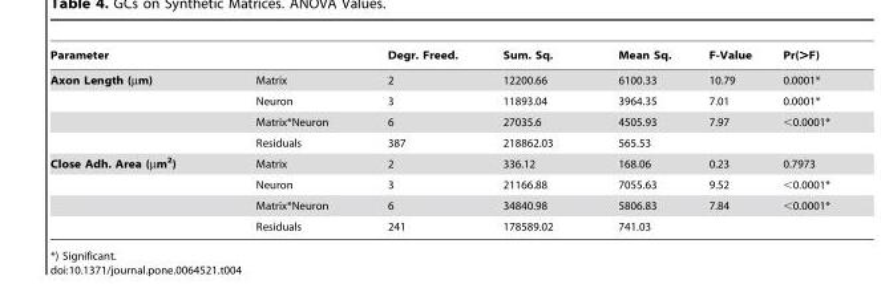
<table><thead><tr><td colspan="2">Parameter</td><td rowspan="2">Degr. Freed. 2</td><td rowspan="2">Sum. Sq. 12200.66</td><td rowspan="2">Mean Sq. 6100.33</td><td rowspan="2">F-Value 10.79</td><td rowspan="2">Pr(&gt;F) 0.0001*</td></tr><tr><td>Axon Length (µm)</td><td>Matrix</td></tr></thead><tbody><tr><td></td><td>Neuron</td><td>3</td><td>11893.04</td><td>3964.35</td><td>7.01</td><td>0.0001*</td></tr><tr><td></td><td>Matrix*Neuron</td><td>6</td><td>27035.6</td><td>4505.93</td><td>7.97</td><td>&lt;0.0001*</td></tr><tr><td></td><td>Residuals</td><td>387</td><td>218862.03</td><td>565.53</td><td></td><td></td></tr><tr><td rowspan="4">Close Adh. Area (µm<sup>2</sup>)</td><td>Matrix</td><td>2</td><td>336.12</td><td>168.06</td><td>0.23</td><td>0.7973</td></tr><tr><td>Neuron</td><td>3</td><td>21166.88</td><td>7055.63</td><td>9.52</td><td>&lt;0.0001*</td></tr><tr><td>Matrix*Neuron</td><td>6</td><td>34840.98</td><td>5806.83</td><td>7.84</td><td>&lt;0.0001*</td></tr><tr><td>Residuals</td><td>241</td><td>178589.02</td><td>741.03</td><td></td><td></td></tr></tbody></table>